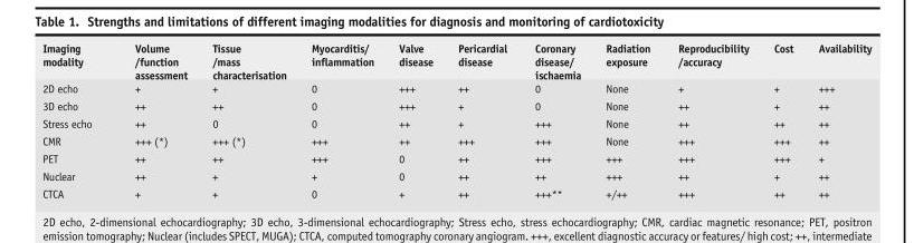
<table><thead><tr><td>Imaging modality</td><td>Volume /function assessment</td><td>Tissue /mass characterisation</td><td>Myocarditis/ inflammation</td><td>Valve disease</td><td>Pericardial disease</td><td>Coronary disease/ ischaemia</td><td>Radiation exposure</td><td>Reproducibility /accuracy</td><td>Cost</td><td>Availability</td></tr></thead><tbody><tr><td>2D echo</td><td>+</td><td>+</td><td>0</td><td>+++</td><td>++</td><td>0</td><td>None</td><td>+</td><td>+</td><td>+++</td></tr><tr><td>3D echo</td><td>++</td><td>++</td><td>0</td><td>+++</td><td>+</td><td>0</td><td>None</td><td>++</td><td>+</td><td>++</td></tr><tr><td>Stress echo</td><td>++</td><td>0</td><td>0</td><td>++</td><td>+</td><td>+++</td><td>None</td><td>++</td><td>++</td><td>++</td></tr><tr><td>CMR</td><td>+++ (*)</td><td>+++ (*)</td><td>+++</td><td>++</td><td>+++</td><td>+++</td><td>None</td><td>+++</td><td>+++</td><td>++</td></tr><tr><td>PET</td><td>++</td><td>++</td><td>+++</td><td>0</td><td>++</td><td>+++</td><td>+++</td><td>+++</td><td>+++</td><td>+</td></tr><tr><td>Nuclear</td><td>++</td><td>+</td><td>+</td><td>0</td><td>++</td><td>++</td><td>+++</td><td>++</td><td>+</td><td>++</td></tr><tr><td>CTCA</td><td>+</td><td>+</td><td>0</td><td>+</td><td>++</td><td>+++**</td><td>+/++</td><td>+++</td><td>++</td><td>++</td></tr></tbody></table>